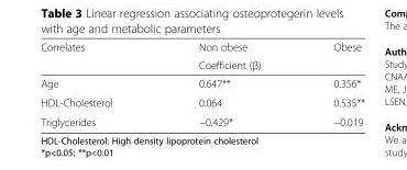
<table><thead><tr><td rowspan="2">Correlates</td><td>Non obese</td><td>Obese</td></tr><tr><td colspan="2">Coefficient (β)</td></tr></thead><tbody><tr><td>Age</td><td>0.647**</td><td>0.356*</td></tr><tr><td>HDL-Cholesterol</td><td>0.064</td><td>0.535**</td></tr><tr><td>Triglycerides</td><td>−0.429*</td><td>−0.019</td></tr></tbody></table>